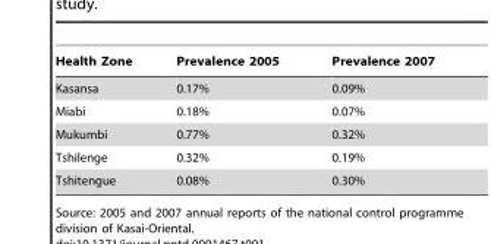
<table><thead><tr><td>Health Zone</td><td>Prevalence 2005</td><td>Prevalence 2007</td></tr></thead><tbody><tr><td>Kasansa</td><td>0.17%</td><td>0.09%</td></tr><tr><td>Miabi</td><td>0.18%</td><td>0.07%</td></tr><tr><td>Mukumbi</td><td>0.77%</td><td>0.32%</td></tr><tr><td>Tshilenge</td><td>0.32%</td><td>0.19%</td></tr><tr><td>Tshitengue</td><td>0.08%</td><td>0.30%</td></tr></tbody></table>